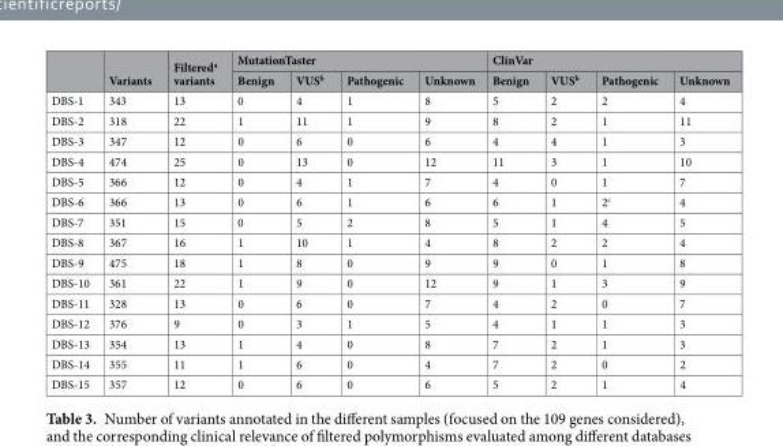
<table><thead><tr><td rowspan="2"></td><td rowspan="2">Variants</td><td rowspan="2">Filtered<sup>a</sup> variants</td><td colspan="4">MutationTaster</td><td colspan="4">ClinVar</td></tr><tr><td>Benign</td><td>VUS<sup>b</sup></td><td>Pathogenic</td><td>Unknown</td><td>Benign</td><td>VUS<sup>b</sup></td><td>Pathogenic</td><td>Unknown</td></tr></thead><tbody><tr><td>DBS-1</td><td>343</td><td>13</td><td>0</td><td>4</td><td>1</td><td>8</td><td>5</td><td>2</td><td>2</td><td>4</td></tr><tr><td>DBS-2</td><td>318</td><td>22</td><td>1</td><td>11</td><td>1</td><td>9</td><td>8</td><td>2</td><td>1</td><td>11</td></tr><tr><td>DBS-3</td><td>347</td><td>12</td><td>0</td><td>6</td><td>0</td><td>6</td><td>4</td><td>4</td><td>1</td><td>3</td></tr><tr><td>DBS-4</td><td>474</td><td>25</td><td>0</td><td>13</td><td>0</td><td>12</td><td>11</td><td>3</td><td>1</td><td>10</td></tr><tr><td>DBS-5</td><td>366</td><td>12</td><td>0</td><td>4</td><td>1</td><td>7</td><td>4</td><td>0</td><td>1</td><td>7</td></tr><tr><td>DBS-6</td><td>366</td><td>13</td><td>0</td><td>6</td><td>1</td><td>6</td><td>6</td><td>1</td><td>2<sup>c</sup></td><td>4</td></tr><tr><td>DBS-7</td><td>351</td><td>15</td><td>0</td><td>5</td><td>2</td><td>8</td><td>5</td><td>1</td><td>4</td><td>5</td></tr><tr><td>DBS-8</td><td>367</td><td>16</td><td>1</td><td>10</td><td>1</td><td>4</td><td>8</td><td>2</td><td>2</td><td>4</td></tr><tr><td>DBS-9</td><td>475</td><td>18</td><td>1</td><td>8</td><td>0</td><td>9</td><td>9</td><td>0</td><td>1</td><td>8</td></tr><tr><td>DBS-10</td><td>361</td><td>22</td><td>1</td><td>9</td><td>0</td><td>12</td><td>9</td><td>1</td><td>3</td><td>9</td></tr><tr><td>DBS-11</td><td>328</td><td>13</td><td>0</td><td>6</td><td>0</td><td>7</td><td>4</td><td>2</td><td>0</td><td>7</td></tr><tr><td>DBS-12</td><td>376</td><td>9</td><td>0</td><td>3</td><td>1</td><td>5</td><td>4</td><td>1</td><td>1</td><td>3</td></tr><tr><td>DBS-13</td><td>354</td><td>13</td><td>1</td><td>4</td><td>0</td><td>8</td><td>7</td><td>2</td><td>1</td><td>3</td></tr><tr><td>DBS-14</td><td>355</td><td>11</td><td>1</td><td>6</td><td>0</td><td>4</td><td>7</td><td>2</td><td>0</td><td>2</td></tr><tr><td>DBS-15</td><td>357</td><td>12</td><td>0</td><td>6</td><td>0</td><td>6</td><td>5</td><td>2</td><td>1</td><td>4</td></tr></tbody></table>